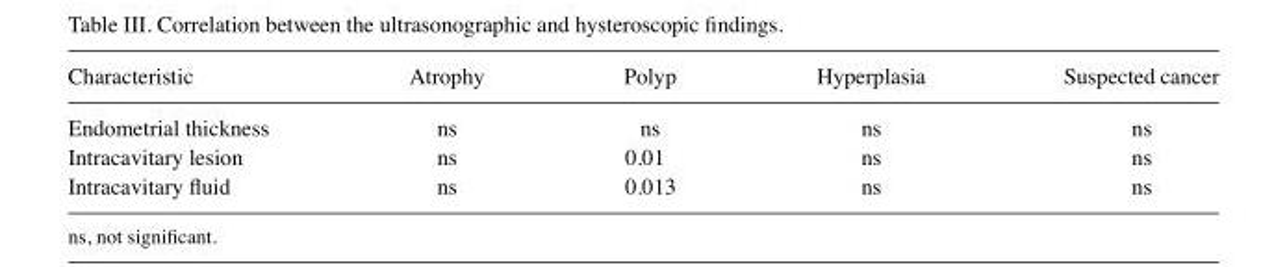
<table><thead><tr><td>Characteristic</td><td>Atrophy</td><td>Polyp</td><td>Hyperplasia</td><td>Suspected cancer</td></tr></thead><tbody><tr><td>Endometrial thickness</td><td>ns</td><td>ns</td><td>ns</td><td>ns</td></tr><tr><td>Intracavitary lesion</td><td>ns</td><td>0.01</td><td>ns</td><td>ns</td></tr><tr><td>Intracavitary fluid</td><td>ns</td><td>0.013</td><td>ns</td><td>ns</td></tr></tbody></table>